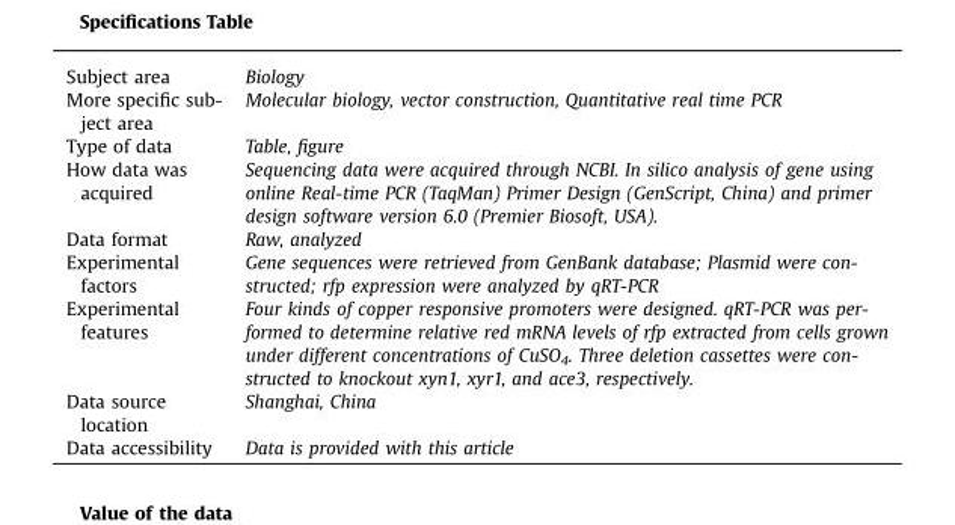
<table><tbody><tr><td>Subject area</td><td>Biology</td></tr><tr><td>More specific sub- ject area</td><td>Molecular biology, vector construction, Quantitative real time PCR</td></tr><tr><td>Type of data</td><td>Table, figure</td></tr><tr><td>How data was acquired</td><td>Sequencing data were acquired through NCBI. In silico analysis of gene using online Real-time PCR (TaqMan) Primer Design (GenScript, China) and primer design software version 6.0 (Premier Biosoft, USA).</td></tr><tr><td>Data format</td><td>Raw, analyzed</td></tr><tr><td>Experimental factors</td><td>Gene sequences were retrieved from GenBank database; Plasmid were con- structed; rfp expression were analyzed by qRT-PCR</td></tr><tr><td>Experimental features</td><td>Four kinds of copper responsive promoters were designed. qRT-PCR was per- formed to determine relative red mRNA levels of rfp extracted from cells grown under different concentrations of CuSO4. Three deletion cassettes were con- structed to knockout xyn1, xyr1, and ace3, respectively.</td></tr><tr><td>Data source location</td><td>Shanghai, China</td></tr><tr><td>Data accessibility</td><td>Data is provided with this article</td></tr></tbody></table>